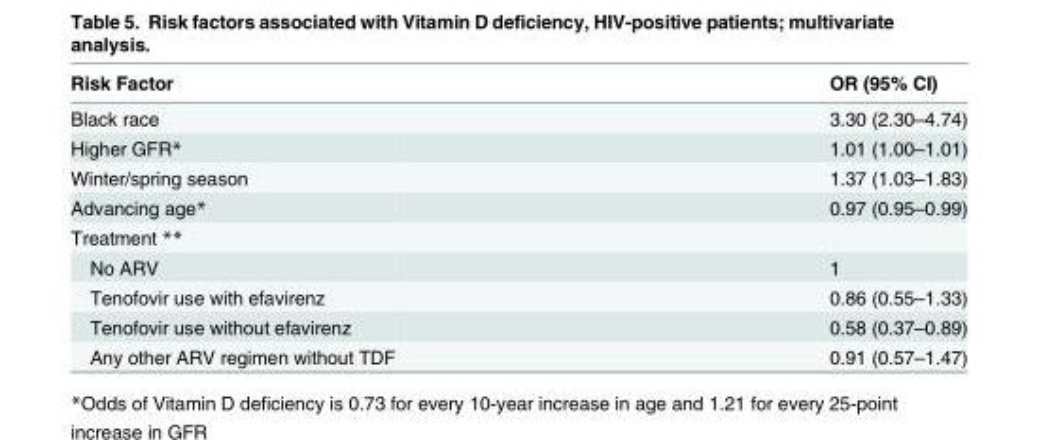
<table><thead><tr><td>Risk Factor</td><td>OR (95% CI)</td></tr></thead><tbody><tr><td>Black race</td><td>3.30 (2.30–4.74)</td></tr><tr><td>Higher GFR*</td><td>1.01 (1.00–1.01)</td></tr><tr><td>Winter/spring season</td><td>1.37 (1.03–1.83)</td></tr><tr><td>Advancing age*</td><td>0.97 (0.95–0.99)</td></tr><tr><td colspan="2">Treatment **</td></tr><tr><td>No ARV</td><td>1</td></tr><tr><td>Tenofovir use with efavirenz</td><td>0.86 (0.55–1.33)</td></tr><tr><td>Tenofovir use without efavirenz</td><td>0.58 (0.37–0.89)</td></tr><tr><td>Any other ARV regimen without TDF</td><td>0.91 (0.57–1.47)</td></tr></tbody></table>